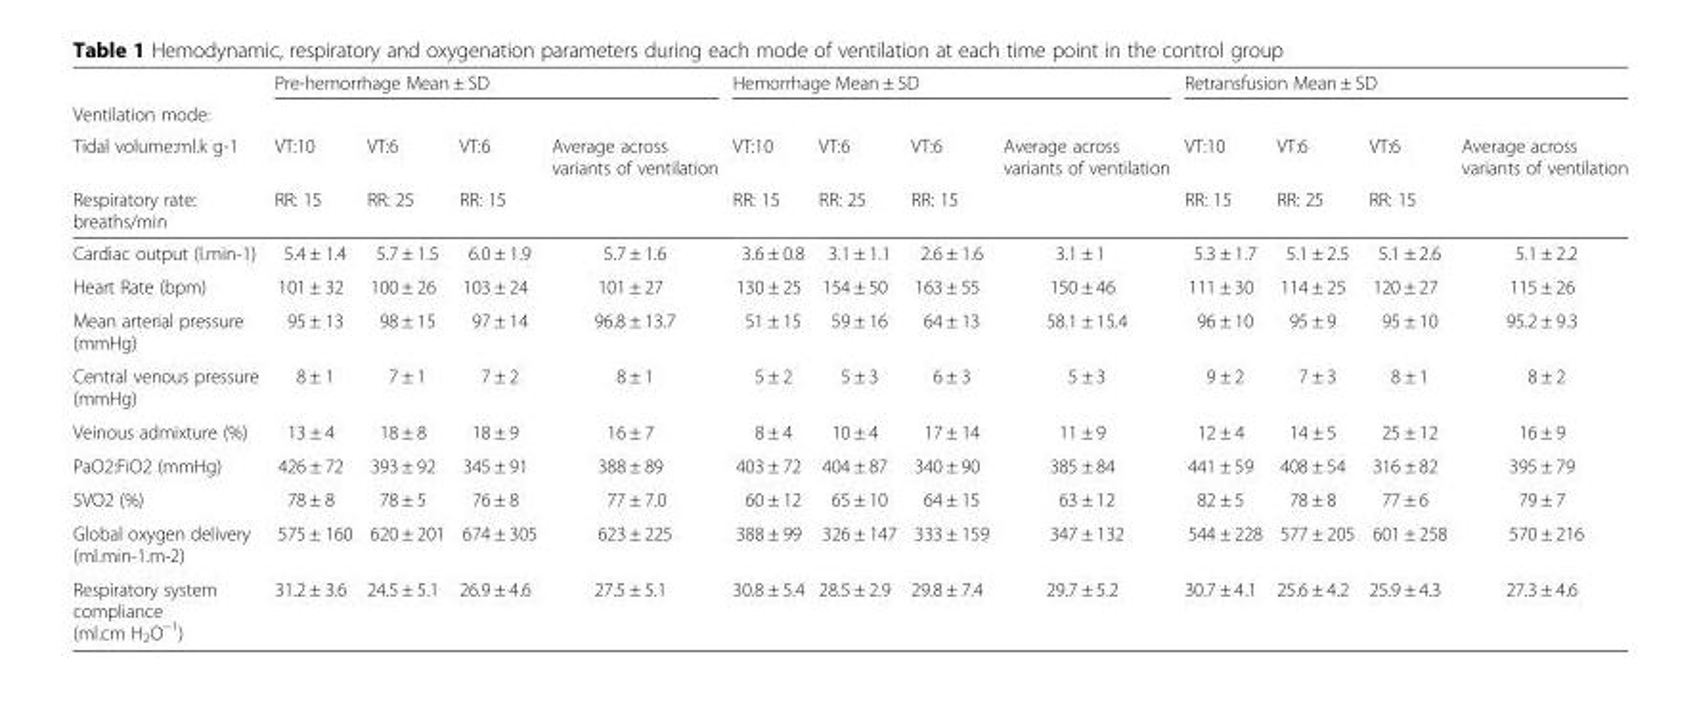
<table><thead><tr><td rowspan="4">Ventilation mode: Tidal volume:ml.k g-1 Respiratory rate: breaths/min</td><td colspan="4">Pre-hemorrhage Mean ± SD</td><td colspan="4">Hemorrhage Mean ± SD</td><td colspan="4">Retransfusion Mean ± SD</td></tr><tr><td rowspan="3">VT:10 RR: 15</td><td rowspan="3">VT:6 RR: 25</td><td rowspan="3">VT:6 RR: 15</td><td rowspan="3">Average across variants of ventilation</td><td rowspan="3">VT:10 RR: 15</td><td rowspan="3">VT:6 RR: 25</td><td rowspan="3">VT:6 RR: 15</td><td rowspan="3">Average across variants of ventilation</td><td rowspan="3">VT:10 RR: 15</td><td rowspan="3">VT:6 RR: 25</td><td rowspan="3">VT:6 RR: 15</td><td rowspan="3">Average across variants of ventilation</td></tr><tr></tr><tr></tr></thead><tbody><tr><td>Cardiac output (l.min-1)</td><td>5.4 ± 1.4</td><td>5.7 ± 1.5</td><td>6.0 ± 1.9</td><td>5.7 ± 1.6</td><td>3.6 ± 0.8</td><td>3.1 ± 1.1</td><td>2.6 ± 1.6</td><td>3.1 ± 1</td><td>5.3 ± 1.7</td><td>5.1 ± 2.5</td><td>5.1 ± 2.6</td><td>5.1 ± 2.2</td></tr><tr><td>Heart Rate (bpm)</td><td>101 ± 32</td><td>100 ± 26</td><td>103 ± 24</td><td>101 ± 27</td><td>130 ± 25</td><td>154 ± 50</td><td>163 ± 55</td><td>150 ± 46</td><td>111 ± 30</td><td>114 ± 25</td><td>120 ± 27</td><td>115 ± 26</td></tr><tr><td>Mean arterial pressure (mmHg)</td><td>95 ± 13</td><td>98 ± 15</td><td>97 ± 14</td><td>96.8 ± 13.7</td><td>51 ± 15</td><td>59 ± 16</td><td>64 ± 13</td><td>58.1 ± 15.4</td><td>96 ± 10</td><td>95 ± 9</td><td>95 ± 10</td><td>95.2 ± 9.3</td></tr><tr><td>Central venous pressure (mmHg)</td><td>8 ± 1</td><td>7 ± 1</td><td>7 ± 2</td><td>8 ± 1</td><td>5 ± 2</td><td>5 ± 3</td><td>6 ± 3</td><td>5 ± 3</td><td>9 ± 2</td><td>7 ± 3</td><td>8 ± 1</td><td>8 ± 2</td></tr><tr><td>Veinous admixture (%)</td><td>13 ± 4</td><td>18 ± 8</td><td>18 ± 9</td><td>16 ± 7</td><td>8 ± 4</td><td>10 ± 4</td><td>17 ± 14</td><td>11 ± 9</td><td>12 ± 4</td><td>14 ± 5</td><td>25 ± 12</td><td>16 ± 9</td></tr><tr><td>PaO2:FiO2 (mmHg)</td><td>426 ± 72</td><td>393 ± 92</td><td>345 ± 91</td><td>388 ± 89</td><td>403 ± 72</td><td>404 ± 87</td><td>340 ± 90</td><td>385 ± 84</td><td>441 ± 59</td><td>408 ± 54</td><td>316 ± 82</td><td>395 ± 79</td></tr><tr><td>SVO2 (%)</td><td>78 ± 8</td><td>78 ± 5</td><td>76 ± 8</td><td>77 ± 7.0</td><td>60 ± 12</td><td>65 ± 10</td><td>64 ± 15</td><td>63 ± 12</td><td>82 ± 5</td><td>78 ± 8</td><td>77 ± 6</td><td>79 ± 7</td></tr><tr><td>Global oxygen delivery (ml.min-1.m-2)</td><td>575 ± 160</td><td>620 ± 201</td><td>674 ± 305</td><td>623 ± 225</td><td>388 ± 99</td><td>326 ± 147</td><td>333 ± 159</td><td>347 ± 132</td><td>544 ± 228</td><td>577 ± 205</td><td>601 ± 258</td><td>570 ± 216</td></tr><tr><td>Respiratory system compliance (ml.cm H<sub>2</sub>O<sup>−1</sup>)</td><td>31.2 ± 3.6</td><td>24.5 ± 5.1</td><td>26.9 ± 4.6</td><td>27.5 ± 5.1</td><td>30.8 ± 5.4</td><td>28.5 ± 2.9</td><td>29.8 ± 7.4</td><td>29.7 ± 5.2</td><td>30.7 ± 4.1</td><td>25.6 ± 4.2</td><td>25.9 ± 4.3</td><td>27.3 ± 4.6</td></tr></tbody></table>